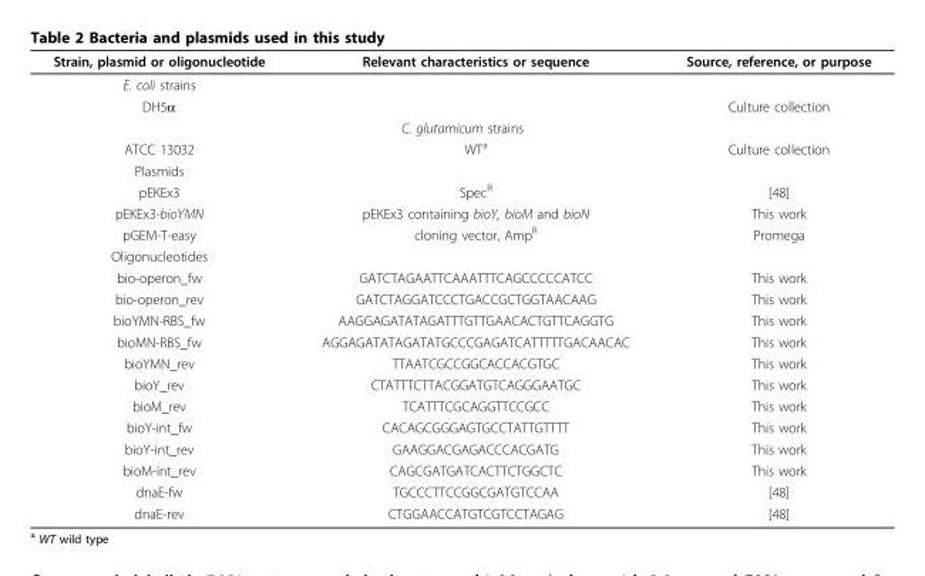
<table><thead><tr><td>Strain, plasmid or oligonucleotide</td><td>Relevant characteristics or sequence</td><td>Source, reference, or purpose</td></tr></thead><tbody><tr><td colspan="3">E. coli strains</td></tr><tr><td>DH5α</td><td></td><td>Culture collection</td></tr><tr><td colspan="3">C. glutamicum strains</td></tr><tr><td>ATCC 13032</td><td>WT<sup>a</sup></td><td>Culture collection</td></tr><tr><td colspan="3">Plasmids</td></tr><tr><td>pEKEx3</td><td>Spec<sup>R</sup></td><td>[48]</td></tr><tr><td>pEKEx3-bioYMN</td><td>pEKEx3 containing bioY, bioM and bioN</td><td>This work</td></tr><tr><td>pGEM-T-easy</td><td>cloning vector, Amp<sup>R</sup></td><td>Promega</td></tr><tr><td colspan="3">Oligonucleotides</td></tr><tr><td>bio-operon_fw</td><td>GATCTAGAATTCAAATTTCAGCCCCCATCC</td><td>This work</td></tr><tr><td>bio-operon_rev</td><td>GATCTAGGATCCCTGACCGCTGGTAACAAG</td><td>This work</td></tr><tr><td>bioYMN-RBS_fw</td><td>AAGGAGATATAGATTTGTTGAACACTGTTCAGGTG</td><td>This work</td></tr><tr><td>bioMN-RBS_fw</td><td>AGGAGATATAGATATGCCCGAGATCATTTTTGACAACAC</td><td>This work</td></tr><tr><td>bioYMN_rev</td><td>TTAATCGCCGGCACCACGTGC</td><td>This work</td></tr><tr><td>bioY_rev</td><td>CTATTTCTTACGGATGTCAGGGAATGC</td><td>This work</td></tr><tr><td>bioM_rev</td><td>TCATTTCGCAGGTTCCGCC</td><td>This work</td></tr><tr><td>bioY-int_fw</td><td>CACAGCGGGAGTGCCTATTGTTTT</td><td>This work</td></tr><tr><td>bioY-int_rev</td><td>GAAGGACGAGACCCACGATG</td><td>This work</td></tr><tr><td>bioM-int_rev</td><td>CAGCGATGATCACTTCTGGCTC</td><td>This work</td></tr><tr><td>dnaE-fw</td><td>TGCCCTTCCGGCGATGTCCAA</td><td>[48]</td></tr><tr><td>dnaE-rev</td><td>CTGGAACCATGTCGTCCTAGAG</td><td>[48]</td></tr></tbody></table>